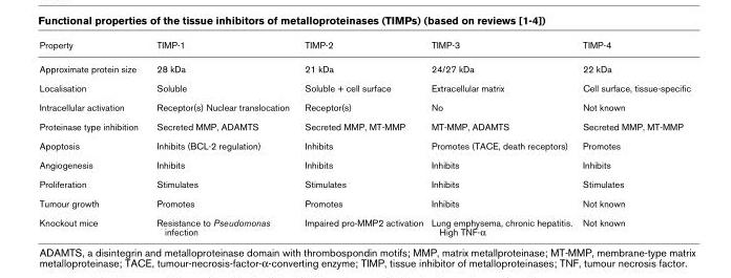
<table><thead><tr><td>Property</td><td>TIMP-1</td><td>TIMP-2</td><td>TIMP-3</td><td>TIMP-4</td></tr></thead><tbody><tr><td>Approximate protein size</td><td>28 kDa</td><td>21 kDa</td><td>24/27 kDa</td><td>22 kDa</td></tr><tr><td>Localisation</td><td>Soluble</td><td>Soluble + cell surface</td><td>Extracellular matrix</td><td>Cell surface, tissue-specific</td></tr><tr><td>Intracellular activation</td><td>Receptor(s) Nuclear translocation</td><td>Receptor(s)</td><td>No</td><td>Not known</td></tr><tr><td>Proteinase type inhibition</td><td>Secreted MMP, ADAMTS</td><td>Secreted MMP, MT-MMP</td><td>MT-MMP, ADAMTS</td><td>Secreted MMP, MT-MMP</td></tr><tr><td>Apoptosis</td><td>Inhibits (BCL-2 regulation)</td><td>Inhibits</td><td>Promotes (TACE, death receptors)</td><td>Promotes</td></tr><tr><td>Angiogenesis</td><td>Inhibits</td><td>Inhibits</td><td>Inhibits</td><td>Inhibits</td></tr><tr><td>Proliferation</td><td>Stimulates</td><td>Stimulates</td><td>Inhibits</td><td>Stimulates</td></tr><tr><td>Tumour growth</td><td>Promotes</td><td>Promotes</td><td>Inhibits</td><td>Not known</td></tr><tr><td>Knockout mice</td><td>Resistance to Pseudomonas infection</td><td>Impaired pro-MMP2 activation</td><td>Lung emphysema, chronic hepatitis. High TNF-α</td><td>Not known</td></tr></tbody></table>